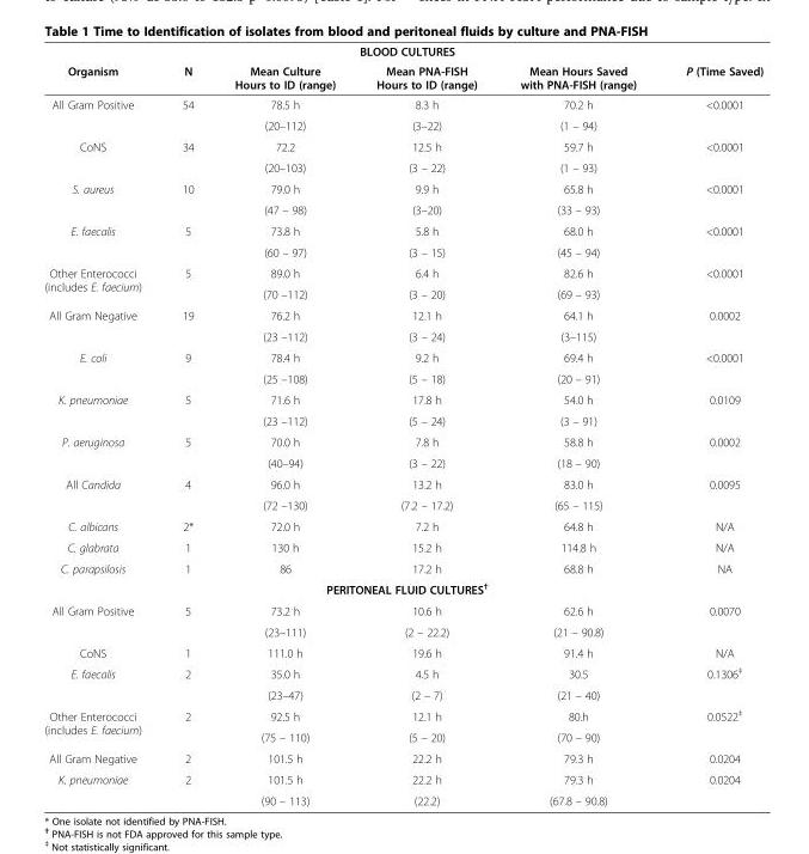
<table><thead><tr><td colspan="6">BLOOD CULTURES</td></tr><tr><td>Organism</td><td>N</td><td>Mean Culture Hours to ID (range)</td><td>Mean PNA-FISH Hours to ID (range)</td><td>Mean Hours Saved with PNA-FISH (range)</td><td>P (Time Saved)</td></tr></thead><tbody><tr><td rowspan="2">All Gram Positive</td><td rowspan="2">54</td><td>78.5 h</td><td>8.3 h</td><td>70.2 h</td><td rowspan="2">&lt;0.0001</td></tr><tr><td>(20–112)</td><td>(3–22)</td><td>(1 – 94)</td></tr><tr><td rowspan="2">CoNS</td><td rowspan="2">34</td><td>72.2</td><td>12.5 h</td><td>59.7 h</td><td rowspan="2">&lt;0.0001</td></tr><tr><td>(20–103)</td><td>(3 – 22)</td><td>(1 – 93)</td></tr><tr><td rowspan="2">S. aureus</td><td rowspan="2">10</td><td>79.0 h</td><td>9.9 h</td><td>65.8 h</td><td rowspan="2">&lt;0.0001</td></tr><tr><td>(47 – 98)</td><td>(3–20)</td><td>(33 – 93)</td></tr><tr><td rowspan="2">E. faecalis</td><td rowspan="2">5</td><td>73.8 h</td><td>5.8 h</td><td>68.0 h</td><td rowspan="2">&lt;0.0001</td></tr><tr><td>(60 – 97)</td><td>(3 – 15)</td><td>(45 – 94)</td></tr><tr><td rowspan="2">Other Enterococci (includes E. faecium)</td><td rowspan="2">5</td><td>89.0 h</td><td>6.4 h</td><td>82.6 h</td><td rowspan="2">&lt;0.0001</td></tr><tr><td>(70 –112)</td><td>(3 – 20)</td><td>(69 – 93)</td></tr><tr><td rowspan="2">All Gram Negative</td><td rowspan="2">19</td><td>76.2 h</td><td>12.1 h</td><td>64.1 h</td><td rowspan="2">0.0002</td></tr><tr><td>(23 –112)</td><td>(3 – 24)</td><td>(3–115)</td></tr><tr><td rowspan="2">E. coli</td><td rowspan="2">9</td><td>78.4 h</td><td>9.2 h</td><td>69.4 h</td><td rowspan="2">&lt;0.0001</td></tr><tr><td>(25 –108)</td><td>(5 – 18)</td><td>(20 – 91)</td></tr><tr><td rowspan="2">K. pneumoniae</td><td rowspan="2">5</td><td>71.6 h</td><td>17.8 h</td><td>54.0 h</td><td rowspan="2">0.0109</td></tr><tr><td>(23 –112)</td><td>(5 – 24)</td><td>(3 – 91)</td></tr><tr><td rowspan="2">P. aeruginosa</td><td rowspan="2">5</td><td>70.0 h</td><td>7.8 h</td><td>58.8 h</td><td rowspan="2">0.0002</td></tr><tr><td>(40–94)</td><td>(3 – 22)</td><td>(18 – 90)</td></tr><tr><td rowspan="2">All Candida</td><td rowspan="2">4</td><td>96.0 h</td><td>13.2 h</td><td>83.0 h</td><td rowspan="2">0.0095</td></tr><tr><td>(72 –130)</td><td>(7.2 – 17.2)</td><td>(65 – 115)</td></tr><tr><td>C. albicans</td><td>2*</td><td>72.0 h</td><td>7.2 h</td><td>64.8 h</td><td>N/A</td></tr><tr><td>C. glabrata</td><td>1</td><td>130 h</td><td>15.2 h</td><td>114.8 h</td><td>N/A</td></tr><tr><td>C. parapsilosis</td><td>1</td><td>86</td><td>17.2 h</td><td>68.8 h</td><td>NA</td></tr><tr><td colspan="6">PERITONEAL FLUID CULTURES<sup>†</sup></td></tr><tr><td rowspan="2">All Gram Positive</td><td rowspan="2">5</td><td>73.2 h</td><td>10.6 h</td><td>62.6 h</td><td rowspan="2">0.0070</td></tr><tr><td>(23–111)</td><td>(2 – 22.2)</td><td>(21 – 90.8)</td></tr><tr><td>CoNS</td><td>1</td><td>111.0 h</td><td>19.6 h</td><td>91.4 h</td><td>N/A</td></tr><tr><td rowspan="2">E. faecalis</td><td rowspan="2">2</td><td>35.0 h</td><td>4.5 h</td><td>30.5</td><td rowspan="2">0.1306<sup>‡</sup></td></tr><tr><td>(23–47)</td><td>(2 – 7)</td><td>(21 – 40)</td></tr><tr><td rowspan="2">Other Enterococci (includes E. faecium)</td><td rowspan="2">2</td><td>92.5 h</td><td>12.1 h</td><td>80.h</td><td rowspan="2">0.0522<sup>‡</sup></td></tr><tr><td>(75 – 110)</td><td>(5 – 20)</td><td>(70 – 90)</td></tr><tr><td>All Gram Negative</td><td>2</td><td>101.5 h</td><td>22.2 h</td><td>79.3 h</td><td>0.0204</td></tr><tr><td rowspan="2">K. pneumoniae</td><td rowspan="2">2</td><td>101.5 h</td><td>22.2 h</td><td>79.3 h</td><td rowspan="2">0.0204</td></tr><tr><td>(90 – 113)</td><td>(22.2)</td><td>(67.8 – 90.8)</td></tr></tbody></table>